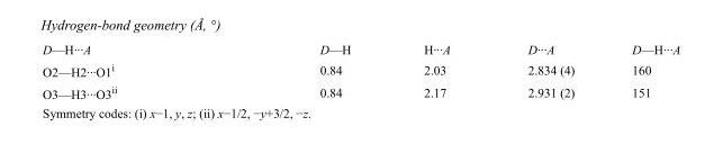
<table><tbody><tr><td>D—H···A</td><td>D—H</td><td>H···A</td><td>D···A</td><td>D—H···A</td></tr><tr><td>O2—H2···O1<sup>i</sup></td><td>0.84</td><td>2.03</td><td>2.834 (4)</td><td>160</td></tr><tr><td>O3—H3···O3<sup>ii</sup></td><td>0.84</td><td>2.17</td><td>2.931 (2)</td><td>151</td></tr></tbody></table>